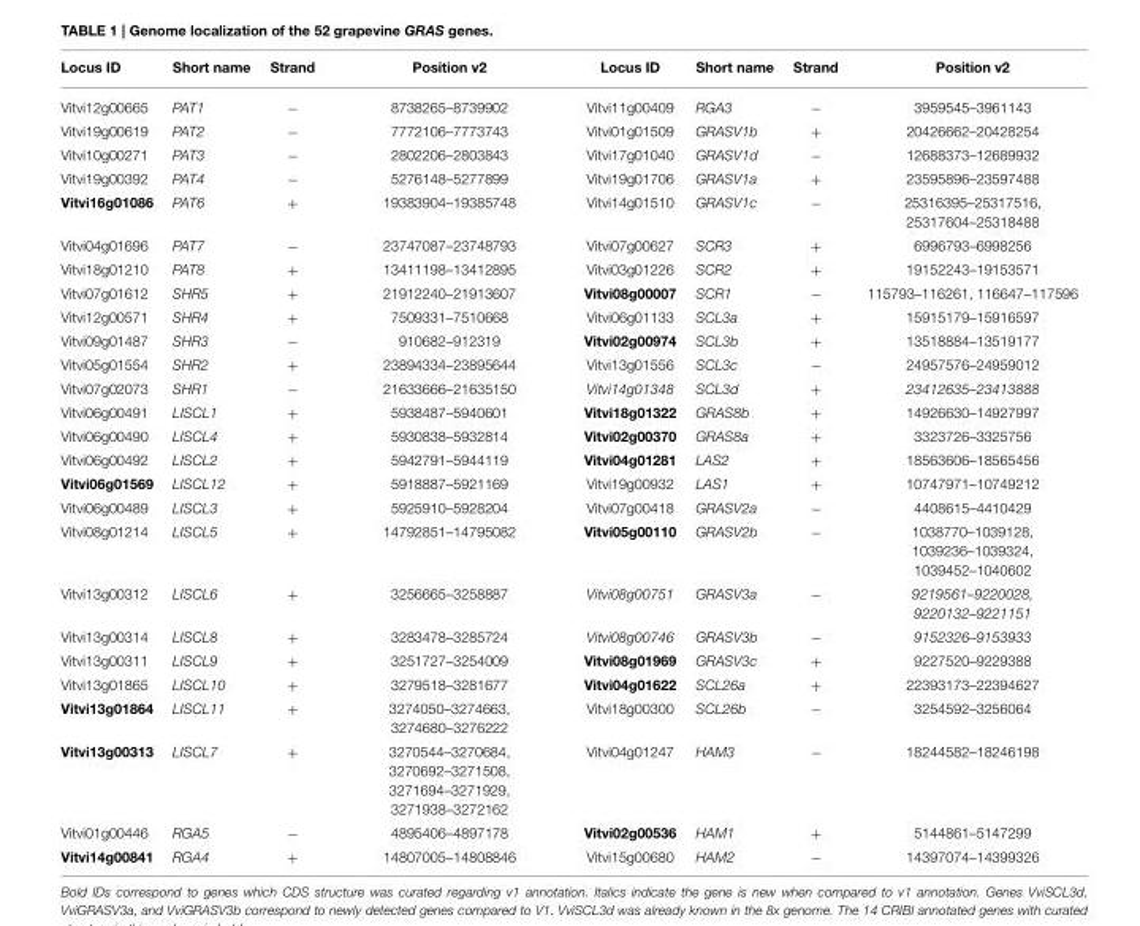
<table><thead><tr><td>Locus ID</td><td>Short name</td><td>Strand</td><td>Position v2</td><td>Locus ID</td><td>Short name</td><td>Strand</td><td>Position v2</td></tr></thead><tbody><tr><td>Vitvi12g00665</td><td>PAT1</td><td>−</td><td>8738265–8739902</td><td>Vitvi11g00409</td><td>RGA3</td><td>−</td><td>3959545–3961143</td></tr><tr><td>Vitvi19g00619</td><td>PAT2</td><td>−</td><td>7772106–7773743</td><td>Vitvi01g01509</td><td>GRASV1b</td><td>+</td><td>20426662–20428254</td></tr><tr><td>Vitvi10g00271</td><td>PAT3</td><td>−</td><td>2802206–2803843</td><td>Vitvi17g01040</td><td>GRASV1d</td><td>−</td><td>12688373–12689932</td></tr><tr><td>Vitvi19g00392</td><td>PAT4</td><td>−</td><td>5276148–5277899</td><td>Vitvi19g01706</td><td>GRASV1a</td><td>+</td><td>23595896–23597488</td></tr><tr><td>Vitvi16g01086</td><td>PAT6</td><td>+</td><td>19383904–19385748</td><td>Vitvi14g01510</td><td>GRASV1c</td><td>−</td><td>25316395–25317516, 25317604–25318488</td></tr><tr><td>Vitvi04g01696</td><td>PAT7</td><td>−</td><td>23747087–23748793</td><td>Vitvi07g00627</td><td>SCR3</td><td>+</td><td>6996793–6998256</td></tr><tr><td>Vitvi18g01210</td><td>PAT8</td><td>+</td><td>13411198–13412895</td><td>Vitvi03g01226</td><td>SCR2</td><td>+</td><td>19152243–19153571</td></tr><tr><td>Vitvi07g01612</td><td>SHR5</td><td>+</td><td>21912240–21913607</td><td>Vitvi08g00007</td><td>SCR1</td><td>−</td><td>115793–116261, 116647–117596</td></tr><tr><td>Vitvi12g00571</td><td>SHR4</td><td>+</td><td>7509331–7510668</td><td>Vitvi06g01133</td><td>SCL3a</td><td>+</td><td>15915179–15916597</td></tr><tr><td>Vitvi09g01487</td><td>SHR3</td><td>−</td><td>910682–912319</td><td>Vitvi02g00974</td><td>SCL3b</td><td>+</td><td>13518884–13519177</td></tr><tr><td>Vitvi05g01554</td><td>SHR2</td><td>+</td><td>23894334–23895644</td><td>Vitvi13g01556</td><td>SCL3c</td><td>−</td><td>24957576–24959012</td></tr><tr><td>Vitvi07g02073</td><td>SHR1</td><td>−</td><td>21633666–21635150</td><td>Vitvi14g01348</td><td>SCL3d</td><td>+</td><td>23412635–23413888</td></tr><tr><td>Vitvi06g00491</td><td>LISCL1</td><td>+</td><td>5938487–5940601</td><td>Vitvi18g01322</td><td>GRAS8b</td><td>+</td><td>14926630–14927997</td></tr><tr><td>Vitvi06g00490</td><td>LISCL4</td><td>+</td><td>5930838–5932814</td><td>Vitvi02g00370</td><td>GRAS8a</td><td>+</td><td>3323726–3325756</td></tr><tr><td>Vitvi06g00492</td><td>LISCL2</td><td>+</td><td>5942791–5944119</td><td>Vitvi04g01281</td><td>LAS2</td><td>+</td><td>18563606–18565456</td></tr><tr><td>Vitvi06g01569</td><td>LISCL12</td><td>+</td><td>5918887–5921169</td><td>Vitvi19g00932</td><td>LAS1</td><td>+</td><td>10747971–10749212</td></tr><tr><td>Vitvi06g00489</td><td>LISCL3</td><td>+</td><td>5925910–5928204</td><td>Vitvi07g00418</td><td>GRASV2a</td><td>−</td><td>4408615–4410429</td></tr><tr><td>Vitvi08g01214</td><td>LISCL5</td><td>+</td><td>14792851–14795082</td><td>Vitvi05g00110</td><td>GRASV2b</td><td>−</td><td>1038770–1039128, 1039236–1039324, 1039452–1040602</td></tr><tr><td>Vitvi13g00312</td><td>LISCL6</td><td>+</td><td>3256665–3258887</td><td>Vitvi08g00751</td><td>GRASV3a</td><td>−</td><td>9219561–9220028, 9220132–9221151</td></tr><tr><td>Vitvi13g00314</td><td>LISCL8</td><td>+</td><td>3283478–3285724</td><td>Vitvi08g00746</td><td>GRASV3b</td><td>−</td><td>9152326–9153933</td></tr><tr><td>Vitvi13g00311</td><td>LISCL9</td><td>+</td><td>3251727–3254009</td><td>Vitvi08g01969</td><td>GRASV3c</td><td>+</td><td>9227520–9229388</td></tr><tr><td>Vitvi13g01865</td><td>LISCL10</td><td>+</td><td>3279518–3281677</td><td>Vitvi04g01622</td><td>SCL26a</td><td>+</td><td>22393173–22394627</td></tr><tr><td>Vitvi13g01864</td><td>LISCL11</td><td>+</td><td>3274050–3274663, 3274680–3276222</td><td>Vitvi18g00300</td><td>SCL26b</td><td>−</td><td>3254592–3256064</td></tr><tr><td>Vitvi13g00313</td><td>LISCL7</td><td>+</td><td>3270544–3270684, 3270692–3271508, 3271694–3271929, 3271938–3272162</td><td>Vitvi04g01247</td><td>HAM3</td><td>−</td><td>18244582–18246198</td></tr><tr><td>Vitvi01g00446</td><td>RGA5</td><td>−</td><td>4895406–4897178</td><td>Vitvi02g00536</td><td>HAM1</td><td>+</td><td>5144861–5147299</td></tr><tr><td>Vitvi14g00841</td><td>RGA4</td><td>+</td><td>14807005–14808846</td><td>Vitvi15g00680</td><td>HAM2</td><td>−</td><td>14397074–14399326</td></tr></tbody></table>